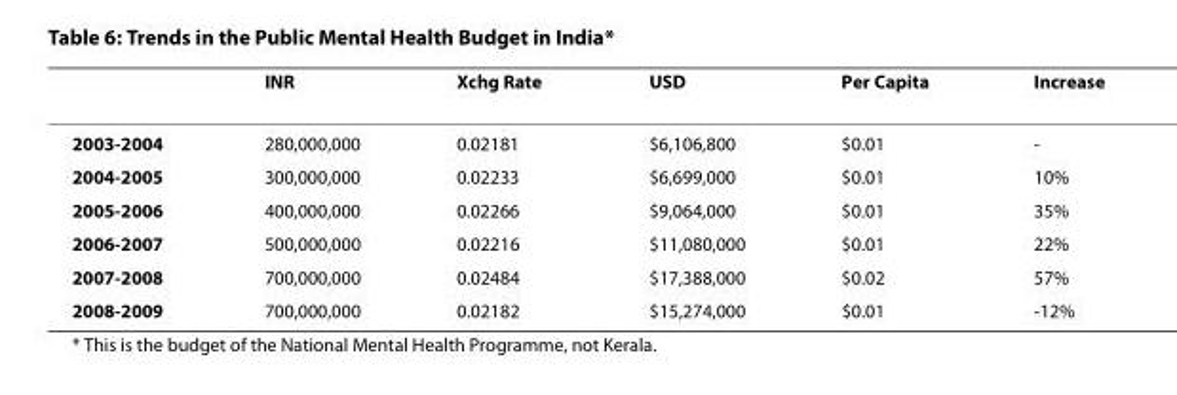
<table><thead><tr><td></td><td>INR</td><td>Xchg Rate</td><td>USD</td><td>Per Capita</td><td>Increase</td></tr></thead><tbody><tr><td>2003-2004</td><td>280,000,000</td><td>0.02181</td><td>$6,106,800</td><td>$0.01</td><td>-</td></tr><tr><td>2004-2005</td><td>300,000,000</td><td>0.02233</td><td>$6,699,000</td><td>$0.01</td><td>10%</td></tr><tr><td>2005-2006</td><td>400,000,000</td><td>0.02266</td><td>$9,064,000</td><td>$0.01</td><td>35%</td></tr><tr><td>2006-2007</td><td>500,000,000</td><td>0.02216</td><td>$11,080,000</td><td>$0.01</td><td>22%</td></tr><tr><td>2007-2008</td><td>700,000,000</td><td>0.02484</td><td>$17,388,000</td><td>$0.02</td><td>57%</td></tr><tr><td>2008-2009</td><td>700,000,000</td><td>0.02182</td><td>$15,274,000</td><td>$0.01</td><td>-12%</td></tr></tbody></table>